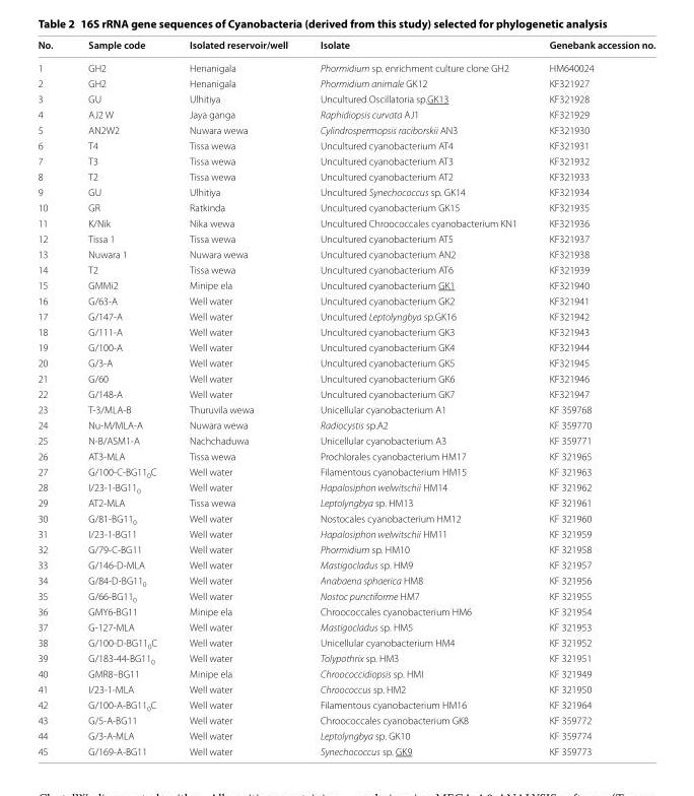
<table><thead><tr><td>No.</td><td>Sample code</td><td>Isolated reservoir/well</td><td>Isolate</td><td>Genebank accession no.</td></tr></thead><tbody><tr><td>1</td><td>GH2</td><td>Henanigala</td><td>Phormidium sp. enrichment culture clone GH2</td><td>HM640024</td></tr><tr><td>2</td><td>GH2</td><td>Henanigala</td><td>Phormidium animale GK12</td><td>KF321927</td></tr><tr><td>3</td><td>GU</td><td>Ulhitiya</td><td>Uncultured Oscillatoria sp.GK13</td><td>KF321928</td></tr><tr><td>4</td><td>AJ2 W</td><td>Jaya ganga</td><td>Raphidiopsis curvata AJ1</td><td>KF321929</td></tr><tr><td>5</td><td>AN2W2</td><td>Nuwara wewa</td><td>Cylindrospermopsis raciborskii AN3</td><td>KF321930</td></tr><tr><td>6</td><td>T4</td><td>Tissa wewa</td><td>Uncultured cyanobacterium AT4</td><td>KF321931</td></tr><tr><td>7</td><td>T3</td><td>Tissa wewa</td><td>Uncultured cyanobacterium AT3</td><td>KF321932</td></tr><tr><td>8</td><td>T2</td><td>Tissa wewa</td><td>Uncultured cyanobacterium AT2</td><td>KF321933</td></tr><tr><td>9</td><td>GU</td><td>Ulhitiya</td><td>Uncultured Synechococcus sp. GK14</td><td>KF321934</td></tr><tr><td>10</td><td>GR</td><td>Ratkinda</td><td>Uncultured cyanobacterium GK15</td><td>KF321935</td></tr><tr><td>11</td><td>K/Nik</td><td>Nika wewa</td><td>Uncultured Chroococcales cyanobacterium KN1</td><td>KF321936</td></tr><tr><td>12</td><td>Tissa 1</td><td>Tissa wewa</td><td>Uncultured cyanobacterium AT5</td><td>KF321937</td></tr><tr><td>13</td><td>Nuwara 1</td><td>Nuwara wewa</td><td>Uncultured cyanobacterium AN2</td><td>KF321938</td></tr><tr><td>14</td><td>T2</td><td>Tissa wewa</td><td>Uncultured cyanobacterium AT6</td><td>KF321939</td></tr><tr><td>15</td><td>GMMi2</td><td>Minipe ela</td><td>Uncultured cyanobacterium GK1</td><td>KF321940</td></tr><tr><td>16</td><td>G/63-A</td><td>Well water</td><td>Uncultured cyanobacterium GK2</td><td>KF321941</td></tr><tr><td>17</td><td>G/147-A</td><td>Well water</td><td>Uncultured Leptolyngbya sp.GK16</td><td>KF321942</td></tr><tr><td>18</td><td>G/111-A</td><td>Well water</td><td>Uncultured cyanobacterium GK3</td><td>KF321943</td></tr><tr><td>19</td><td>G/100-A</td><td>Well water</td><td>Uncultured cyanobacterium GK4</td><td>KF321944</td></tr><tr><td>20</td><td>G/3-A</td><td>Well water</td><td>Uncultured cyanobacterium GK5</td><td>KF321945</td></tr><tr><td>21</td><td>G/60</td><td>Well water</td><td>Uncultured cyanobacterium GK6</td><td>KF321946</td></tr><tr><td>22</td><td>G/148-A</td><td>Well water</td><td>Uncultured cyanobacterium GK7</td><td>KF321947</td></tr><tr><td>23</td><td>T-3/MLA-B</td><td>Thuruvila wewa</td><td>Unicellular cyanobacterium A1</td><td>KF 359768</td></tr><tr><td>24</td><td>Nu-M/MLA-A</td><td>Nuwara wewa</td><td>Radiocystis sp.A2</td><td>KF 359770</td></tr><tr><td>25</td><td>N-B/ASM1-A</td><td>Nachchaduwa</td><td>Unicellular cyanobacterium A3</td><td>KF 359771</td></tr><tr><td>26</td><td>AT3-MLA</td><td>Tissa wewa</td><td>Prochlorales cyanobacterium HM17</td><td>KF 321965</td></tr><tr><td>27</td><td>G/100-C-BG11<sub>0</sub>C</td><td>Well water</td><td>Filamentous cyanobacterium HM15</td><td>KF 321963</td></tr><tr><td>28</td><td>I/23-1-BG11<sub>0</sub></td><td>Well water</td><td>Hapalosiphon welwitschii HM14</td><td>KF 321962</td></tr><tr><td>29</td><td>AT2-MLA</td><td>Tissa wewa</td><td>Leptolyngbya sp. HM13</td><td>KF 321961</td></tr><tr><td>30</td><td>G/81-BG11<sub>0</sub></td><td>Well water</td><td>Nostocales cyanobacterium HM12</td><td>KF 321960</td></tr><tr><td>31</td><td>I/23-1-BG11</td><td>Well water</td><td>Hapalosiphon welwitschii HM11</td><td>KF 321959</td></tr><tr><td>32</td><td>G/79-C-BG11</td><td>Well water</td><td>Phormidium sp. HM10</td><td>KF 321958</td></tr><tr><td>33</td><td>G/146-D-MLA</td><td>Well water</td><td>Mastigocladus sp. HM9</td><td>KF 321957</td></tr><tr><td>34</td><td>G/84-D-BG11<sub>0</sub></td><td>Well water</td><td>Anabaena sphaerica HM8</td><td>KF 321956</td></tr><tr><td>35</td><td>G/66-BG11<sub>0</sub></td><td>Well water</td><td>Nostoc punctiforme HM7</td><td>KF 321955</td></tr><tr><td>36</td><td>GMY6-BG11</td><td>Minipe ela</td><td>Chroococcales cyanobacterium HM6</td><td>KF 321954</td></tr><tr><td>37</td><td>G-127-MLA</td><td>Well water</td><td>Mastigocladus sp. HM5</td><td>KF 321953</td></tr><tr><td>38</td><td>G/100-D-BG11<sub>0</sub>C</td><td>Well water</td><td>Unicellular cyanobacterium HM4</td><td>KF 321952</td></tr><tr><td>39</td><td>G/183-44-BG11<sub>0</sub></td><td>Well water</td><td>Tolypothrix sp. HM3</td><td>KF 321951</td></tr><tr><td>40</td><td>GMR8–BG11</td><td>Minipe ela</td><td>Chroococcidiopsis sp. HMI</td><td>KF 321949</td></tr><tr><td>41</td><td>I/23-1-MLA</td><td>Well water</td><td>Chroococcus sp. HM2</td><td>KF 321950</td></tr><tr><td>42</td><td>G/100-A-BG11<sub>0</sub>C</td><td>Well water</td><td>Filamentous cyanobacterium HM16</td><td>KF 321964</td></tr><tr><td>43</td><td>G/5-A-BG11</td><td>Well water</td><td>Chroococcales cyanobacterium GK8</td><td>KF 359772</td></tr><tr><td>44</td><td>G/3-A-MLA</td><td>Well water</td><td>Leptolyngbya sp. GK10</td><td>KF 359774</td></tr><tr><td>45</td><td>G/169-A-BG11</td><td>Well water</td><td>Synechococcus sp. GK9</td><td>KF 359773</td></tr></tbody></table>